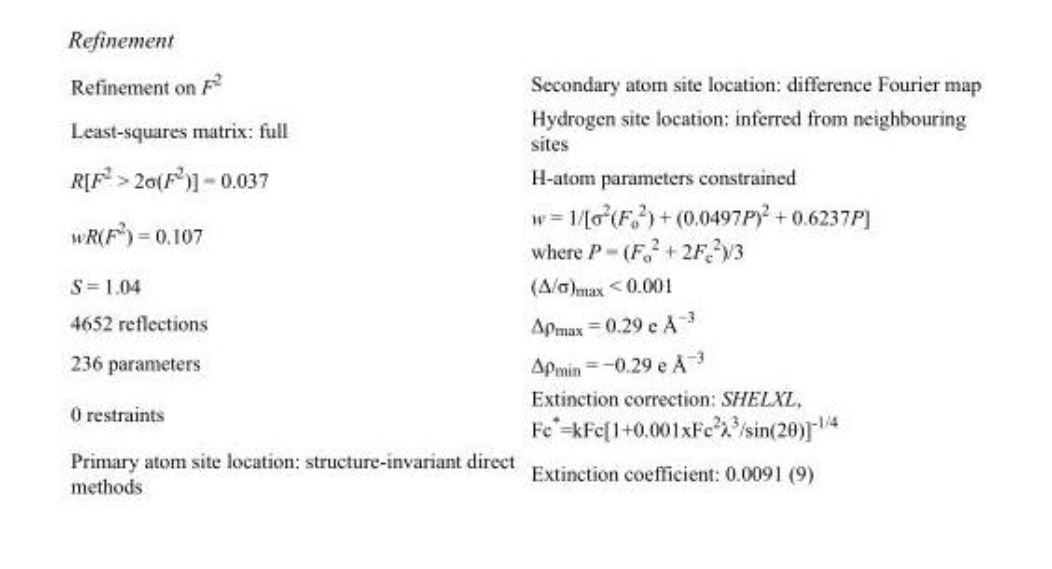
<table><tbody><tr><td>Refinement on F<sup>2</sup></td><td>Secondary atom site location: difference Fourier map</td></tr><tr><td>Least-squares matrix: full</td><td>Hydrogen site location: inferred from neighbouring sites</td></tr><tr><td>R[F<sup>2</sup> &gt; 2σ(F<sup>2</sup>)] = 0.037</td><td>H-atom parameters constrained</td></tr><tr><td>wR(F<sup>2</sup>) = 0.107</td><td>w = 1/[σ<sup>2</sup>(F<sub>o</sub> <sup>2</sup>) + (0.0497P)<sup>2</sup> + 0.6237P] where P = (F<sub>o</sub> <sup>2</sup> + 2F<sub>c</sub> <sup>2</sup>)/3</td></tr><tr><td>S = 1.04</td><td>(Δ/σ)<sub>max</sub> &lt; 0.001</td></tr><tr><td>4652 reflections</td><td>Δρ<sub>max</sub> = 0.29 e Å<sup>−3</sup></td></tr><tr><td>236 parameters</td><td>Δρ<sub>min</sub> = −0.29 e Å<sup>−3</sup></td></tr><tr><td>0 restraints</td><td>Extinction correction: SHELXL, Fc*=kFc[1+0.001xFc<sup>2</sup>λ<sup>3</sup>/sin(2θ)]<sup>-1/4</sup></td></tr><tr><td>Primary atom site location: structure-invariant direct methods</td><td>Extinction coefficient: 0.0091 (9)</td></tr></tbody></table>